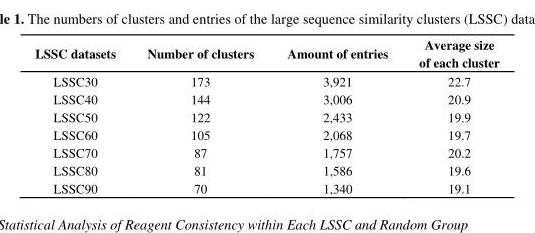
<table><thead><tr><td>LSSC datasets</td><td>Number of clusters</td><td>Amount of entries</td><td>Average size of each cluster</td></tr></thead><tbody><tr><td>LSSC30</td><td>173</td><td>3,921</td><td>22.7</td></tr><tr><td>LSSC40</td><td>144</td><td>3,006</td><td>20.9</td></tr><tr><td>LSSC50</td><td>122</td><td>2,433</td><td>19.9</td></tr><tr><td>LSSC60</td><td>105</td><td>2,068</td><td>19.7</td></tr><tr><td>LSSC70</td><td>87</td><td>1,757</td><td>20.2</td></tr><tr><td>LSSC80</td><td>81</td><td>1,586</td><td>19.6</td></tr><tr><td>LSSC90</td><td>70</td><td>1,340</td><td>19.1</td></tr></tbody></table>